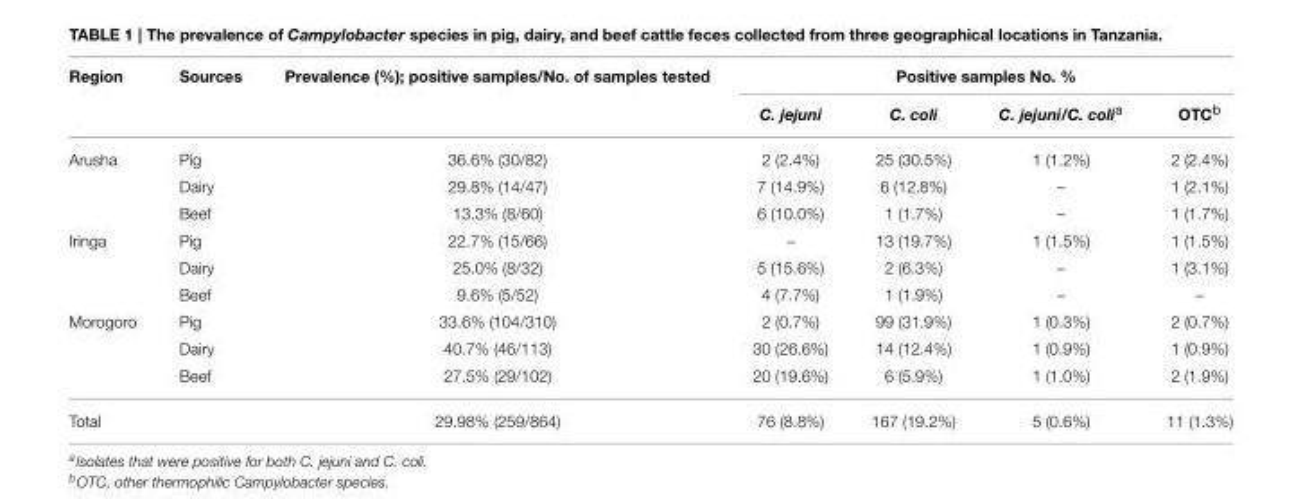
<table><thead><tr><td rowspan="2">Region</td><td rowspan="2">Sources</td><td rowspan="2">Prevalence (%); positive samples/No. of samples tested</td><td colspan="4">Positive samples No. %</td></tr><tr><td>C. jejuni</td><td>C. coli</td><td>C. jejuni/C. coli<sup>a</sup></td><td>OTC<sup>b</sup></td></tr></thead><tbody><tr><td rowspan="3">Arusha</td><td>Pig</td><td>36.6% (30/82)</td><td>2 (2.4%)</td><td>25 (30.5%)</td><td>1 (1.2%)</td><td>2 (2.4%)</td></tr><tr><td>Dairy</td><td>29.8% (14/47)</td><td>7 (14.9%)</td><td>6 (12.8%)</td><td>–</td><td>1 (2.1%)</td></tr><tr><td>Beef</td><td>13.3% (8/60)</td><td>6 (10.0%)</td><td>1 (1.7%)</td><td>–</td><td>1 (1.7%)</td></tr><tr><td rowspan="3">Iringa</td><td>Pig</td><td>22.7% (15/66)</td><td>–</td><td>13 (19.7%)</td><td>1 (1.5%)</td><td>1 (1.5%)</td></tr><tr><td>Dairy</td><td>25.0% (8/32)</td><td>5 (15.6%)</td><td>2 (6.3%)</td><td>–</td><td>1 (3.1%)</td></tr><tr><td>Beef</td><td>9.6% (5/52)</td><td>4 (7.7%)</td><td>1 (1.9%)</td><td>–</td><td>–</td></tr><tr><td rowspan="3">Morogoro</td><td>Pig</td><td>33.6% (104/310)</td><td>2 (0.7%)</td><td>99 (31.9%)</td><td>1 (0.3%)</td><td>2 (0.7%)</td></tr><tr><td>Dairy</td><td>40.7% (46/113)</td><td>30 (26.6%)</td><td>14 (12.4%)</td><td>1 (0.9%)</td><td>1 (0.9%)</td></tr><tr><td>Beef</td><td>27.5% (29/102)</td><td>20 (19.6%)</td><td>6 (5.9%)</td><td>1 (1.0%)</td><td>2 (1.9%)</td></tr><tr><td>Total</td><td></td><td>29.98% (259/864)</td><td>76 (8.8%)</td><td>167 (19.2%)</td><td>5 (0.6%)</td><td>11 (1.3%)</td></tr></tbody></table>